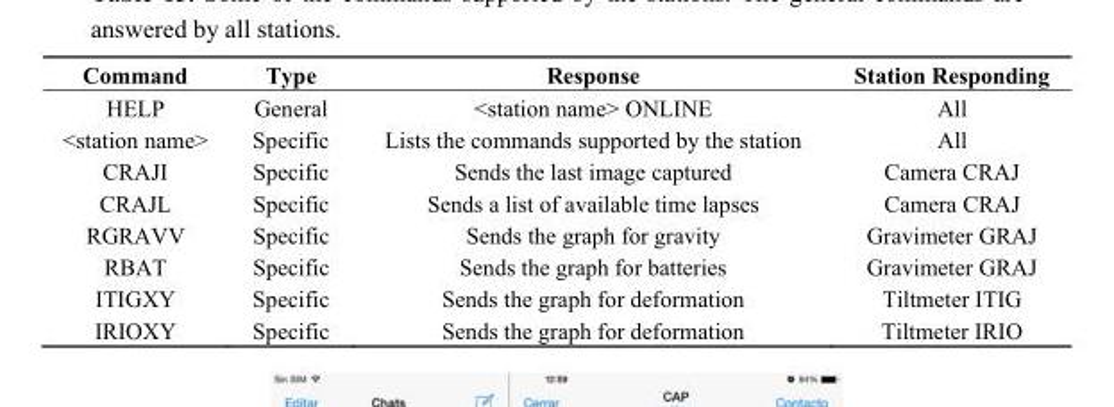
<table><thead><tr><td>Command</td><td>Type</td><td>Response</td><td>Station Responding</td></tr></thead><tbody><tr><td>HELP</td><td>General</td><td>&lt;station name&gt; ONLINE</td><td>All</td></tr><tr><td>&lt;station name&gt;</td><td>Specific</td><td>Lists the commands supported by the station</td><td>All</td></tr><tr><td>CRAJI</td><td>Specific</td><td>Sends the last image captured</td><td>Camera CRAJ</td></tr><tr><td>CRAJL</td><td>Specific</td><td>Sends a list of available time lapses</td><td>Camera CRAJ</td></tr><tr><td>RGRAVV</td><td>Specific</td><td>Sends the graph for gravity</td><td>Gravimeter GRAJ</td></tr><tr><td>RBAT</td><td>Specific</td><td>Sends the graph for batteries</td><td>Gravimeter GRAJ</td></tr><tr><td>ITIGXY</td><td>Specific</td><td>Sends the graph for deformation</td><td>Tiltmeter ITIG</td></tr><tr><td>IRIOXY</td><td>Specific</td><td>Sends the graph for deformation</td><td>Tiltmeter IRIO</td></tr></tbody></table>